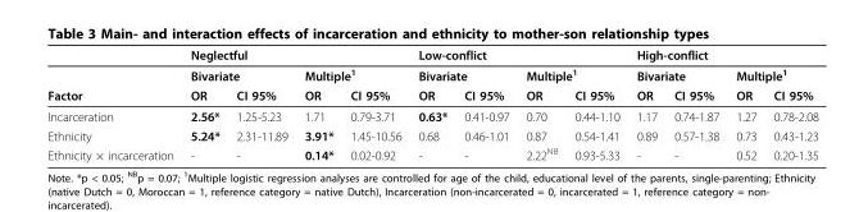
<table><thead><tr><td rowspan="3">Factor</td><td colspan="4">Neglectful</td><td colspan="4">Low-conflict</td><td colspan="4">High-conflict</td></tr><tr><td colspan="2">Bivariate</td><td colspan="2">Multiple<sup>1</sup></td><td colspan="2">Bivariate</td><td colspan="2">Multiple<sup>1</sup></td><td colspan="2">Bivariate</td><td colspan="2">Multiple<sup>1</sup></td></tr><tr><td>OR</td><td>CI 95%</td><td>OR</td><td>CI 95%</td><td>OR</td><td>CI 95%</td><td>OR</td><td>CI 95%</td><td>OR</td><td>CI 95%</td><td>OR</td><td>CI 95%</td></tr></thead><tbody><tr><td>Incarceration</td><td>2.56*</td><td>1.25-5.23</td><td>1.71</td><td>0.79-3.71</td><td>0.63*</td><td>0.41-0.97</td><td>0.70</td><td>0.44-1.10</td><td>1.17</td><td>0.74-1.87</td><td>1.27</td><td>0.78-2.08</td></tr><tr><td>Ethnicity</td><td>5.24*</td><td>2.31-11.89</td><td>3.91*</td><td>1.45-10.56</td><td>0.68</td><td>0.46-1.01</td><td>0.87</td><td>0.54-1.41</td><td>0.89</td><td>0.57-1.38</td><td>0.73</td><td>0.43-1.23</td></tr><tr><td>Ethnicity × incarceration</td><td>-</td><td>-</td><td>0.14*</td><td>0.02-0.92</td><td>-</td><td>-</td><td>2.22<sup>NB</sup></td><td>0.93-5.33</td><td>-</td><td>-</td><td>0.52</td><td>0.20-1.35</td></tr></tbody></table>